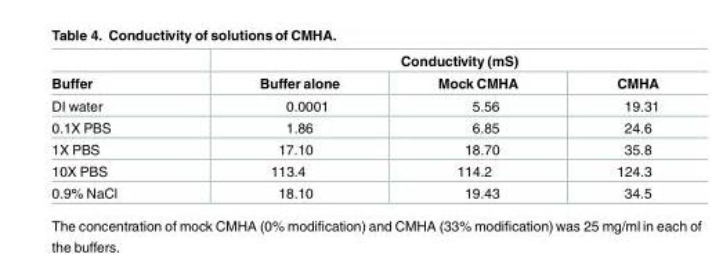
<table><thead><tr><td rowspan="2">Buffer</td><td colspan="3">Conductivity (mS)</td></tr><tr><td>Buffer alone</td><td>Mock CMHA</td><td>CMHA</td></tr></thead><tbody><tr><td>DI water</td><td>0.0001</td><td>5.56</td><td>19.31</td></tr><tr><td>0.1X PBS</td><td>1.86</td><td>6.85</td><td>24.6</td></tr><tr><td>1X PBS</td><td>17.10</td><td>18.70</td><td>35.8</td></tr><tr><td>10X PBS</td><td>113.4</td><td>114.2</td><td>124.3</td></tr><tr><td>0.9% NaCl</td><td>18.10</td><td>19.43</td><td>34.5</td></tr></tbody></table>